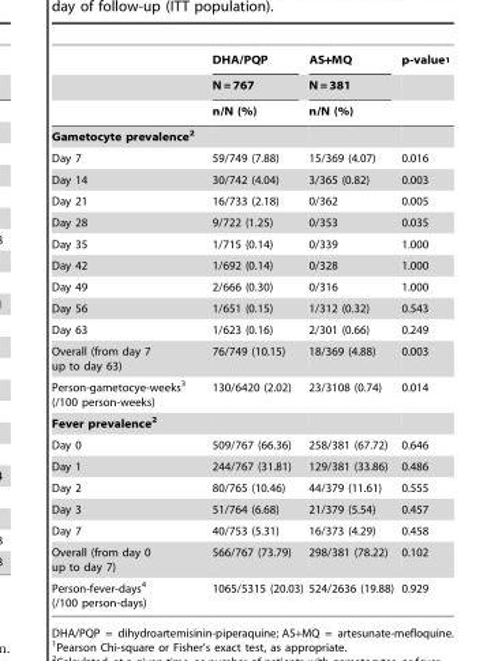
<table><thead><tr><td rowspan="3"></td><td rowspan="3">DHA/PQP N = 767 n/N (%)</td><td rowspan="3">AS+MQ N = 381 n/N (%)</td><td rowspan="3">p-value<sup>1</sup></td></tr><tr></tr><tr></tr></thead><tbody><tr><td colspan="4">Gametocyte prevalence2</td></tr><tr><td>Day 7</td><td>59/749 (7.88)</td><td>15/369 (4.07)</td><td>0.016</td></tr><tr><td>Day 14</td><td>30/742 (4.04)</td><td>3/365 (0.82)</td><td>0.003</td></tr><tr><td>Day 21</td><td>16/733 (2.18)</td><td>0/362</td><td>0.005</td></tr><tr><td>Day 28</td><td>9/722 (1.25)</td><td>0/353</td><td>0.035</td></tr><tr><td>Day 35</td><td>1/715 (0.14)</td><td>0/339</td><td>1.000</td></tr><tr><td>Day 42</td><td>1/692 (0.14)</td><td>0/328</td><td>1.000</td></tr><tr><td>Day 49</td><td>2/666 (0.30)</td><td>0/316</td><td>1.000</td></tr><tr><td>Day 56</td><td>1/651 (0.15)</td><td>1/312 (0.32)</td><td>0.543</td></tr><tr><td>Day 63</td><td>1/623 (0.16)</td><td>2/301 (0.66)</td><td>0.249</td></tr><tr><td>Overall (from day 7 up to day 63)</td><td>76/749 (10.15)</td><td>18/369 (4.88)</td><td>0.003</td></tr><tr><td>Person-gametocye-weeks<sup>3</sup> (/100 person-weeks)</td><td>130/6420 (2.02)</td><td>23/3108 (0.74)</td><td>0.014</td></tr><tr><td colspan="4">Fever prevalence2</td></tr><tr><td>Day 0</td><td>509/767 (66.36)</td><td>258/381 (67.72)</td><td>0.646</td></tr><tr><td>Day 1</td><td>244/767 (31.81)</td><td>129/381 (33.86)</td><td>0.486</td></tr><tr><td>Day 2</td><td>80/765 (10.46)</td><td>44/379 (11.61)</td><td>0.555</td></tr><tr><td>Day 3</td><td>51/764 (6.68)</td><td>21/379 (5.54)</td><td>0.457</td></tr><tr><td>Day 7</td><td>40/753 (5.31)</td><td>16/373 (4.29)</td><td>0.458</td></tr><tr><td>Overall (from day 0 up to day 7)</td><td>566/767 (73.79)</td><td>298/381 (78.22)</td><td>0.102</td></tr><tr><td>Person-fever-days<sup>4</sup> (/100 person-days)</td><td>1065/5315 (20.03)</td><td>524/2636 (19.88)</td><td>0.929</td></tr></tbody></table>